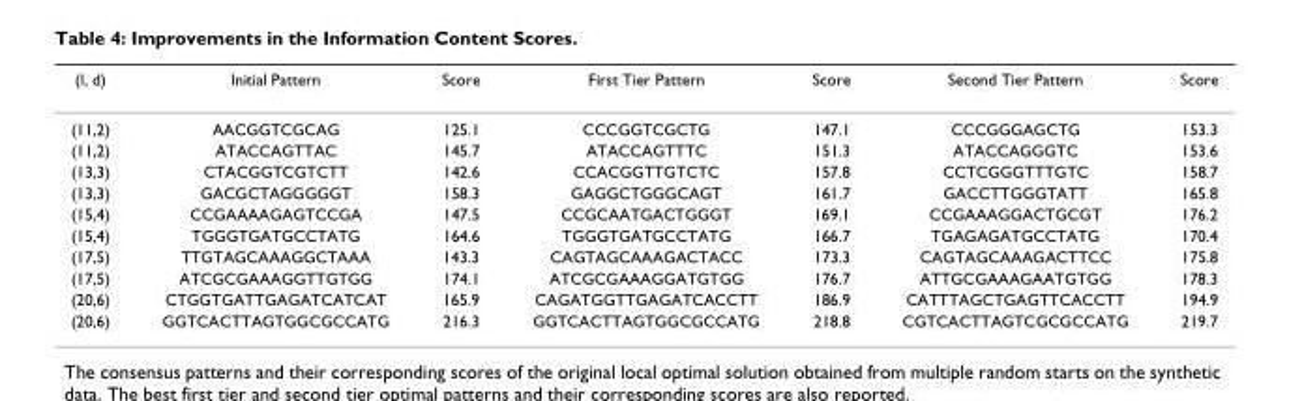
<table><thead><tr><td>(l, d)</td><td>Initial Pattern</td><td>Score</td><td>First Tier Pattern</td><td>Score</td><td>Second Tier Pattern</td><td>Score</td></tr></thead><tbody><tr><td>(11,2)</td><td>AACGGTCGCAG</td><td>125.1</td><td>CCCGGTCGCTG</td><td>147.1</td><td>CCCGGGAGCTG</td><td>153.3</td></tr><tr><td>(11,2)</td><td>ATACCAGTTAC</td><td>145.7</td><td>ATACCAGTTTC</td><td>151.3</td><td>ATACCAGGGTC</td><td>153.6</td></tr><tr><td>(13,3)</td><td>CTACGGTCGTCTT</td><td>142.6</td><td>CCACGGTTGTCTC</td><td>157.8</td><td>CCTCGGGTTTGTC</td><td>158.7</td></tr><tr><td>(13,3)</td><td>GACGCTAGGGGGT</td><td>158.3</td><td>GAGGCTGGGCAGT</td><td>161.7</td><td>GACCTTGGGTATT</td><td>165.8</td></tr><tr><td>(15,4)</td><td>CCGAAAAGAGTCCGA</td><td>147.5</td><td>CCGCAATGACTGGGT</td><td>169.1</td><td>CCGAAAGGACTGCGT</td><td>176.2</td></tr><tr><td>(15,4)</td><td>TGGGTGATGCCTATG</td><td>164.6</td><td>TGGGTGATGCCTATG</td><td>166.7</td><td>TGAGAGATGCCTATG</td><td>170.4</td></tr><tr><td>(17,5)</td><td>TTGTAGCAAAGGCTAAA</td><td>143.3</td><td>CAGTAGCAAAGACTACC</td><td>173.3</td><td>CAGTAGCAAAGACTTCC</td><td>175.8</td></tr><tr><td>(17,5)</td><td>ATCGCGAAAGGTTGTGG</td><td>174.1</td><td>ATCGCGAAAGGATGTGG</td><td>176.7</td><td>ATTGCGAAAGAATGTGG</td><td>178.3</td></tr><tr><td>(20,6)</td><td>CTGGTGATTGAGATCATCAT</td><td>165.9</td><td>CAGATGGTTGAGATCACCTT</td><td>186.9</td><td>CATTTAGCTGAGTTCACCTT</td><td>194.9</td></tr><tr><td>(20,6)</td><td>GGTCACTTAGTGGCGCCATG</td><td>216.3</td><td>GGTCACTTAGTGGCGCCATG</td><td>218.8</td><td>CGTCACTTAGTCGCGCCATG</td><td>219.7</td></tr></tbody></table>